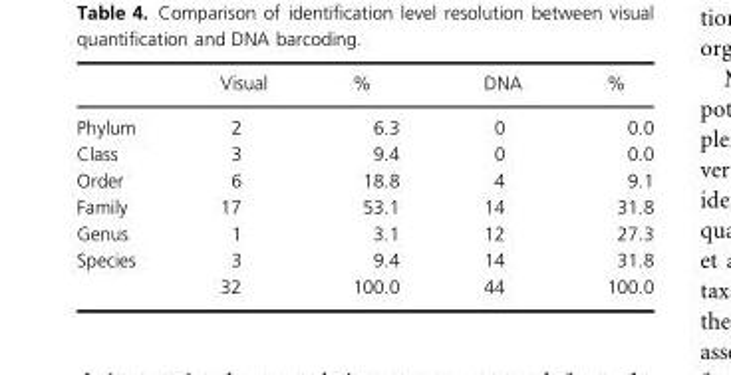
<table><thead><tr><td></td><td>Visual</td><td>%</td><td>DNA</td><td>%</td></tr></thead><tbody><tr><td>Phylum</td><td>2</td><td>6.3</td><td>0</td><td>0.0</td></tr><tr><td>Class</td><td>3</td><td>9.4</td><td>0</td><td>0.0</td></tr><tr><td>Order</td><td>6</td><td>18.8</td><td>4</td><td>9.1</td></tr><tr><td>Family</td><td>17</td><td>53.1</td><td>14</td><td>31.8</td></tr><tr><td>Genus</td><td>1</td><td>3.1</td><td>12</td><td>27.3</td></tr><tr><td rowspan="2">Species</td><td>3</td><td>9.4</td><td>14</td><td>31.8</td></tr><tr><td>32</td><td>100.0</td><td>44</td><td>100.0</td></tr></tbody></table>